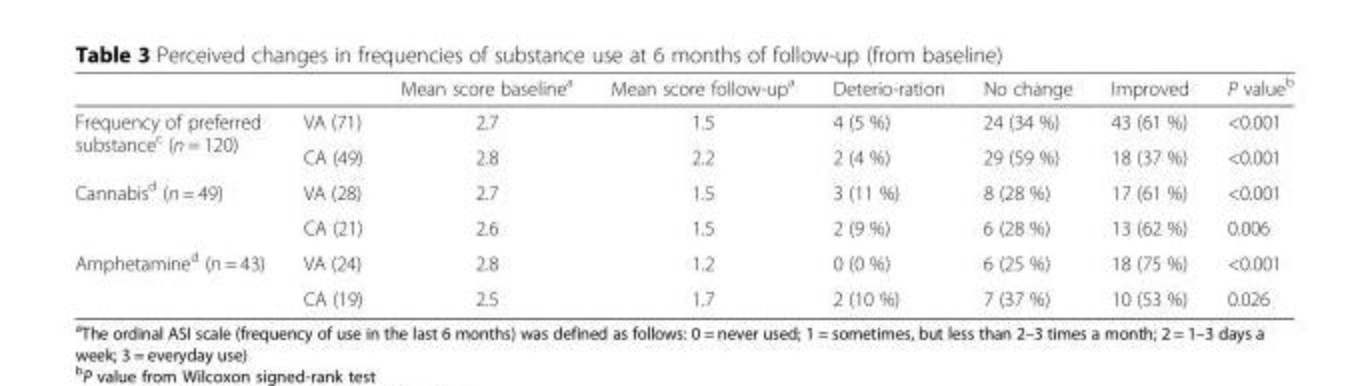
<table><thead><tr><td></td><td></td><td>Mean score baseline<sup>a</sup></td><td>Mean score follow-up<sup>a</sup></td><td>Deterio-ration</td><td>No change</td><td>Improved</td><td>P value<sup>b</sup></td></tr></thead><tbody><tr><td rowspan="2">Frequency of preferred substance<sup>c</sup> (n = 120)</td><td>VA (71)</td><td>2.7</td><td>1.5</td><td>4 (5 %)</td><td>24 (34 %)</td><td>43 (61 %)</td><td>&lt;0.001</td></tr><tr><td>CA (49)</td><td>2.8</td><td>2.2</td><td>2 (4 %)</td><td>29 (59 %)</td><td>18 (37 %)</td><td>&lt;0.001</td></tr><tr><td rowspan="2">Cannabis<sup>d</sup> (n = 49)</td><td>VA (28)</td><td>2.7</td><td>1.5</td><td>3 (11 %)</td><td>8 (28 %)</td><td>17 (61 %)</td><td>&lt;0.001</td></tr><tr><td>CA (21)</td><td>2.6</td><td>1.5</td><td>2 (9 %)</td><td>6 (28 %)</td><td>13 (62 %)</td><td>0.006</td></tr><tr><td rowspan="2">Amphetamine<sup>d</sup> (n = 43)</td><td>VA (24)</td><td>2.8</td><td>1.2</td><td>0 (0 %)</td><td>6 (25 %)</td><td>18 (75 %)</td><td>&lt;0.001</td></tr><tr><td>CA (19)</td><td>2.5</td><td>1.7</td><td>2 (10 %)</td><td>7 (37 %)</td><td>10 (53 %)</td><td>0.026</td></tr></tbody></table>